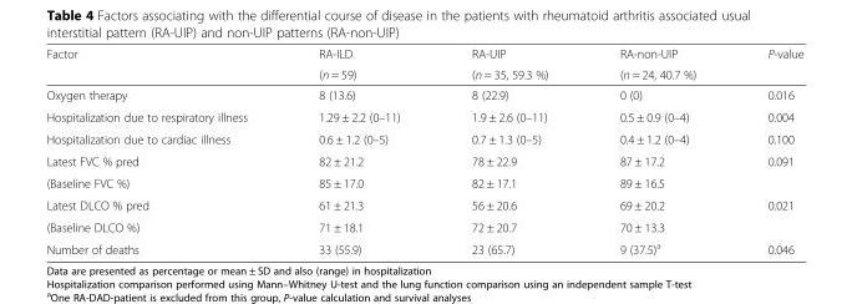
<table><thead><tr><td rowspan="2">Factor</td><td rowspan="2">RA-ILD (n = 59)</td><td rowspan="2">RA-UIP (n = 35, 59.3 %)</td><td rowspan="2">RA-non-UIP (n = 24, 40.7 %)</td><td rowspan="2">P-value</td></tr><tr></tr></thead><tbody><tr><td>Oxygen therapy</td><td>8 (13.6)</td><td>8 (22.9)</td><td>0 (0)</td><td>0.016</td></tr><tr><td>Hospitalization due to respiratory illness</td><td>1.29 ± 2.2 (0–11)</td><td>1.9 ± 2.6 (0–11)</td><td>0.5 ± 0.9 (0–4)</td><td>0.004</td></tr><tr><td>Hospitalization due to cardiac illness</td><td>0.6 ± 1.2 (0–5)</td><td>0.7 ± 1.3 (0–5)</td><td>0.4 ± 1.2 (0–4)</td><td>0.100</td></tr><tr><td>Latest FVC % pred</td><td>82 ± 21.2</td><td>78 ± 22.9</td><td>87 ± 17.2</td><td>0.091</td></tr><tr><td>(Baseline FVC %)</td><td>85 ± 17.0</td><td>82 ± 17.1</td><td>89 ± 16.5</td><td></td></tr><tr><td>Latest DLCO % pred</td><td>61 ± 21.3</td><td>56 ± 20.6</td><td>69 ± 20.2</td><td>0.021</td></tr><tr><td>(Baseline DLCO %)</td><td>71 ± 18.1</td><td>72 ± 20.7</td><td>70 ± 13.3</td><td></td></tr><tr><td>Number of deaths</td><td>33 (55.9)</td><td>23 (65.7)</td><td>9 (37.5)<sup>a</sup></td><td>0.046</td></tr></tbody></table>